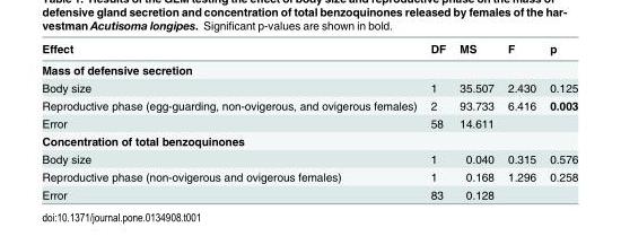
<table><thead><tr><td>Effect</td><td>DF</td><td>MS</td><td>F</td><td>p</td></tr></thead><tbody><tr><td colspan="5">Mass of defensive secretion</td></tr><tr><td>Body size</td><td>1</td><td>35.507</td><td>2.430</td><td>0.125</td></tr><tr><td>Reproductive phase (egg-guarding, non-ovigerous, and ovigerous females)</td><td>2</td><td>93.733</td><td>6.416</td><td>0.003</td></tr><tr><td>Error</td><td>58</td><td>14.611</td><td></td><td></td></tr><tr><td colspan="5">Concentration of total benzoquinones</td></tr><tr><td>Body size</td><td>1</td><td>0.040</td><td>0.315</td><td>0.576</td></tr><tr><td>Reproductive phase (non-ovigerous and ovigerous females)</td><td>1</td><td>0.168</td><td>1.296</td><td>0.258</td></tr><tr><td>Error</td><td>83</td><td>0.128</td><td></td><td></td></tr></tbody></table>